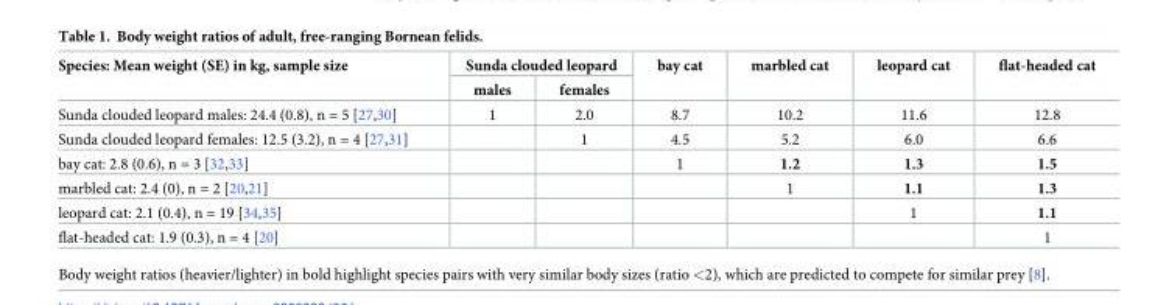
<table><thead><tr><td rowspan="2">Species: Mean weight (SE) in kg, sample size</td><td colspan="2">Sunda clouded leopard</td><td rowspan="2">bay cat</td><td rowspan="2">marbled cat</td><td rowspan="2">leopard cat</td><td rowspan="2">flat-headed cat</td></tr><tr><td>males</td><td>females</td></tr></thead><tbody><tr><td>Sunda clouded leopard males: 24.4 (0.8), n = 5 [27,30]</td><td>1</td><td>2.0</td><td>8.7</td><td>10.2</td><td>11.6</td><td>12.8</td></tr><tr><td>Sunda clouded leopard females: 12.5 (3.2), n = 4 [27,31]</td><td></td><td>1</td><td>4.5</td><td>5.2</td><td>6.0</td><td>6.6</td></tr><tr><td>bay cat: 2.8 (0.6), n = 3 [32,33]</td><td></td><td></td><td>1</td><td>1.2</td><td>1.3</td><td>1.5</td></tr><tr><td>marbled cat: 2.4 (0), n = 2 [20,21]</td><td></td><td></td><td></td><td>1</td><td>1.1</td><td>1.3</td></tr><tr><td>leopard cat: 2.1 (0.4), n = 19 [34,35]</td><td></td><td></td><td></td><td></td><td>1</td><td>1.1</td></tr><tr><td>flat-headed cat: 1.9 (0.3), n = 4 [20]</td><td></td><td></td><td></td><td></td><td></td><td>1</td></tr></tbody></table>